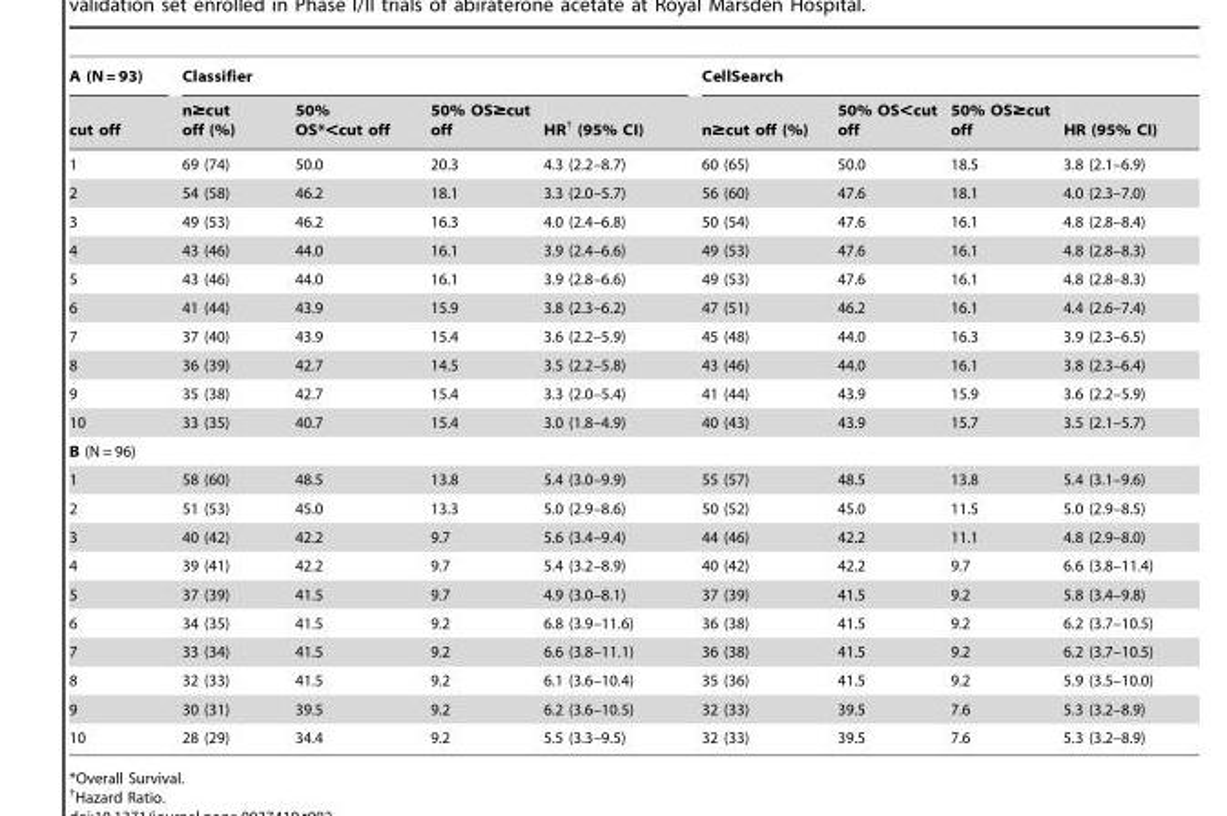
<table><thead><tr><td rowspan="2">A (N = 93) cut off</td><td colspan="4">Classifier</td><td colspan="4">CellSearch</td></tr><tr><td>n≥cut off (%)</td><td>50% OS*&lt;cut off</td><td>50% OS≥cut off</td><td>HR† (95% CI)</td><td>n≥cut off (%)</td><td>50% OS&lt;cut off</td><td>50% OS≥cut off</td><td>HR (95% CI)</td></tr></thead><tbody><tr><td>1</td><td>69 (74)</td><td>50.0</td><td>20.3</td><td>4.3 (2.2–8.7)</td><td>60 (65)</td><td>50.0</td><td>18.5</td><td>3.8 (2.1–6.9)</td></tr><tr><td>2</td><td>54 (58)</td><td>46.2</td><td>18.1</td><td>3.3 (2.0–5.7)</td><td>56 (60)</td><td>47.6</td><td>18.1</td><td>4.0 (2.3–7.0)</td></tr><tr><td>3</td><td>49 (53)</td><td>46.2</td><td>16.3</td><td>4.0 (2.4–6.8)</td><td>50 (54)</td><td>47.6</td><td>16.1</td><td>4.8 (2.8–8.4)</td></tr><tr><td>4</td><td>43 (46)</td><td>44.0</td><td>16.1</td><td>3.9 (2.4–6.6)</td><td>49 (53)</td><td>47.6</td><td>16.1</td><td>4.8 (2.8–8.3)</td></tr><tr><td>5</td><td>43 (46)</td><td>44.0</td><td>16.1</td><td>3.9 (2.8–6.6)</td><td>49 (53)</td><td>47.6</td><td>16.1</td><td>4.8 (2.8–8.3)</td></tr><tr><td>6</td><td>41 (44)</td><td>43.9</td><td>15.9</td><td>3.8 (2.3–6.2)</td><td>47 (51)</td><td>46.2</td><td>16.1</td><td>4.4 (2.6–7.4)</td></tr><tr><td>7</td><td>37 (40)</td><td>43.9</td><td>15.4</td><td>3.6 (2.2–5.9)</td><td>45 (48)</td><td>44.0</td><td>16.3</td><td>3.9 (2.3–6.5)</td></tr><tr><td>8</td><td>36 (39)</td><td>42.7</td><td>14.5</td><td>3.5 (2.2–5.8)</td><td>43 (46)</td><td>44.0</td><td>16.1</td><td>3.8 (2.3–6.4)</td></tr><tr><td>9</td><td>35 (38)</td><td>42.7</td><td>15.4</td><td>3.3 (2.0–5.4)</td><td>41 (44)</td><td>43.9</td><td>15.9</td><td>3.6 (2.2–5.9)</td></tr><tr><td>10</td><td>33 (35)</td><td>40.7</td><td>15.4</td><td>3.0 (1.8–4.9)</td><td>40 (43)</td><td>43.9</td><td>15.7</td><td>3.5 (2.1–5.7)</td></tr><tr><td colspan="9">B (N = 96)</td></tr><tr><td>1</td><td>58 (60)</td><td>48.5</td><td>13.8</td><td>5.4 (3.0–9.9)</td><td>55 (57)</td><td>48.5</td><td>13.8</td><td>5.4 (3.1–9.6)</td></tr><tr><td>2</td><td>51 (53)</td><td>45.0</td><td>13.3</td><td>5.0 (2.9–8.6)</td><td>50 (52)</td><td>45.0</td><td>11.5</td><td>5.0 (2.9–8.5)</td></tr><tr><td>3</td><td>40 (42)</td><td>42.2</td><td>9.7</td><td>5.6 (3.4–9.4)</td><td>44 (46)</td><td>42.2</td><td>11.1</td><td>4.8 (2.9–8.0)</td></tr><tr><td>4</td><td>39 (41)</td><td>42.2</td><td>9.7</td><td>5.4 (3.2–8.9)</td><td>40 (42)</td><td>42.2</td><td>9.7</td><td>6.6 (3.8–11.4)</td></tr><tr><td>5</td><td>37 (39)</td><td>41.5</td><td>9.7</td><td>4.9 (3.0–8.1)</td><td>37 (39)</td><td>41.5</td><td>9.2</td><td>5.8 (3.4–9.8)</td></tr><tr><td>6</td><td>34 (35)</td><td>41.5</td><td>9.2</td><td>6.8 (3.9–11.6)</td><td>36 (38)</td><td>41.5</td><td>9.2</td><td>6.2 (3.7–10.5)</td></tr><tr><td>7</td><td>33 (34)</td><td>41.5</td><td>9.2</td><td>6.6 (3.8–11.1)</td><td>36 (38)</td><td>41.5</td><td>9.2</td><td>6.2 (3.7–10.5)</td></tr><tr><td>8</td><td>32 (33)</td><td>41.5</td><td>9.2</td><td>6.1 (3.6–10.4)</td><td>35 (36)</td><td>41.5</td><td>9.2</td><td>5.9 (3.5–10.0)</td></tr><tr><td>9</td><td>30 (31)</td><td>39.5</td><td>9.2</td><td>6.2 (3.6–10.5)</td><td>32 (33)</td><td>39.5</td><td>7.6</td><td>5.3 (3.2–8.9)</td></tr><tr><td>10</td><td>28 (29)</td><td>34.4</td><td>9.2</td><td>5.5 (3.3–9.5)</td><td>32 (33)</td><td>39.5</td><td>7.6</td><td>5.3 (3.2–8.9)</td></tr></tbody></table>